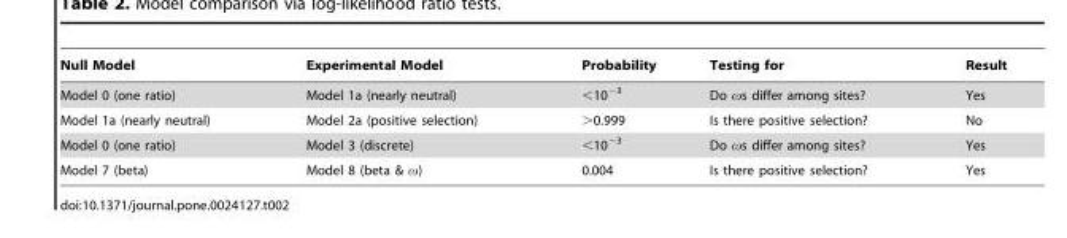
<table><thead><tr><td>Null Model</td><td>Experimental Model</td><td>Probability</td><td>Testing for</td><td>Result</td></tr></thead><tbody><tr><td>Model 0 (one ratio)</td><td>Model 1a (nearly neutral)</td><td>&lt;10<sup>−3</sup></td><td>Do vs differ among sites?</td><td>Yes</td></tr><tr><td>Model 1a (nearly neutral)</td><td>Model 2a (positive selection)</td><td>&gt;0.999</td><td>Is there positive selection?</td><td>No</td></tr><tr><td>Model 0 (one ratio)</td><td>Model 3 (discrete)</td><td>&lt;10<sup>−3</sup></td><td>Do vs differ among sites?</td><td>Yes</td></tr><tr><td>Model 7 (beta)</td><td>Model 8 (beta &amp; v)</td><td>0.004</td><td>Is there positive selection?</td><td>Yes</td></tr></tbody></table>